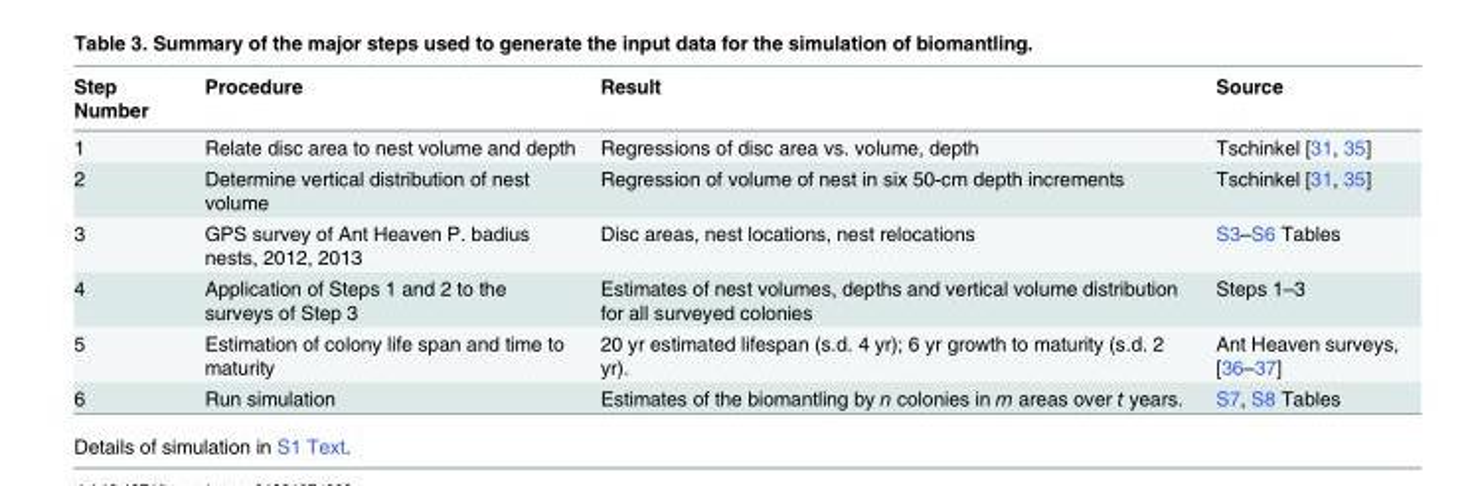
<table><thead><tr><td>Step Number</td><td>Procedure</td><td>Result</td><td>Source</td></tr></thead><tbody><tr><td>1</td><td>Relate disc area to nest volume and depth</td><td>Regressions of disc area vs. volume, depth</td><td>Tschinkel [31, 35]</td></tr><tr><td>2</td><td>Determine vertical distribution of nest volume</td><td>Regression of volume of nest in six 50-cm depth increments</td><td>Tschinkel [31, 35]</td></tr><tr><td>3</td><td>GPS survey of Ant Heaven P. badius nests, 2012, 2013</td><td>Disc areas, nest locations, nest relocations</td><td>S3–S6 Tables</td></tr><tr><td>4</td><td>Application of Steps 1 and 2 to the surveys of Step 3</td><td>Estimates of nest volumes, depths and vertical volume distribution for all surveyed colonies</td><td>Steps 1–3</td></tr><tr><td>5</td><td>Estimation of colony life span and time to maturity</td><td>20 yr estimated lifespan (s.d. 4 yr); 6 yr growth to maturity (s.d. 2 yr).</td><td>Ant Heaven surveys, [36–37]</td></tr><tr><td>6</td><td>Run simulation</td><td>Estimates of the biomantling by n colonies in m areas over t years.</td><td>S7, S8 Tables</td></tr></tbody></table>